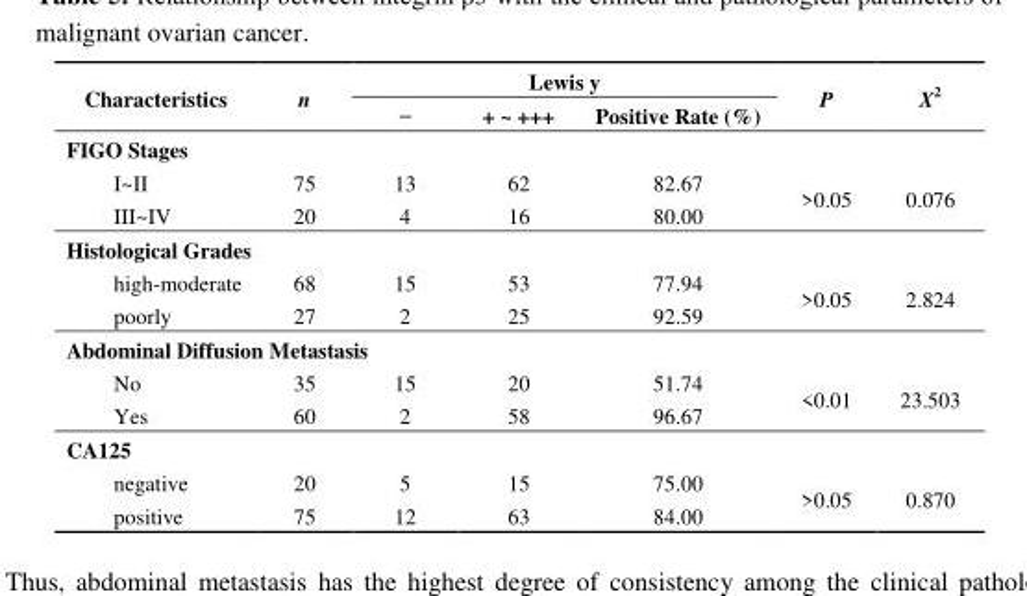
<table><thead><tr><td rowspan="2">Characteristics</td><td rowspan="2">n</td><td colspan="3">Lewis y</td><td rowspan="2">P</td><td rowspan="2">X<sup>2</sup></td></tr><tr><td>−</td><td>+ ~ +++</td><td>Positive Rate (%)</td></tr></thead><tbody><tr><td colspan="7">FIGO Stages</td></tr><tr><td>I~II</td><td>75</td><td>13</td><td>62</td><td>82.67</td><td rowspan="2">&gt;0.05</td><td rowspan="2">0.076</td></tr><tr><td>III~IV</td><td>20</td><td>4</td><td>16</td><td>80.00</td></tr><tr><td colspan="7">Histological Grades</td></tr><tr><td>high-moderate</td><td>68</td><td>15</td><td>53</td><td>77.94</td><td rowspan="2">&gt;0.05</td><td rowspan="2">2.824</td></tr><tr><td>poorly</td><td>27</td><td>2</td><td>25</td><td>92.59</td></tr><tr><td colspan="7">Abdominal Diffusion Metastasis</td></tr><tr><td>No</td><td>35</td><td>15</td><td>20</td><td>51.74</td><td rowspan="2">&lt;0.01</td><td rowspan="2">23.503</td></tr><tr><td>Yes</td><td>60</td><td>2</td><td>58</td><td>96.67</td></tr><tr><td colspan="7">CA125</td></tr><tr><td>negative</td><td>20</td><td>5</td><td>15</td><td>75.00</td><td rowspan="2">&gt;0.05</td><td rowspan="2">0.870</td></tr><tr><td>positive</td><td>75</td><td>12</td><td>63</td><td>84.00</td></tr></tbody></table>